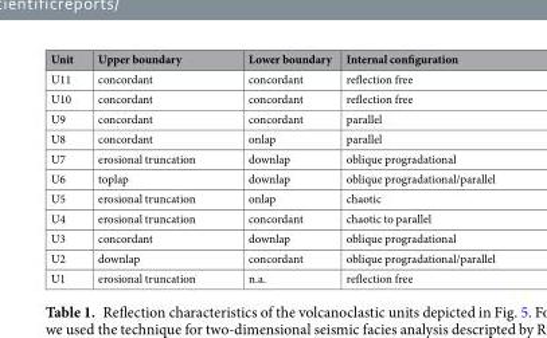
<table><thead><tr><td>Unit</td><td>Upper boundary</td><td>Lower boundary</td><td>Internal configuration</td></tr></thead><tbody><tr><td>U11</td><td>concordant</td><td>concordant</td><td>reflection free</td></tr><tr><td>U10</td><td>concordant</td><td>concordant</td><td>reflection free</td></tr><tr><td>U9</td><td>concordant</td><td>concordant</td><td>parallel</td></tr><tr><td>U8</td><td>concordant</td><td>onlap</td><td>parallel</td></tr><tr><td>U7</td><td>erosional truncation</td><td>downlap</td><td>oblique progradational</td></tr><tr><td>U6</td><td>toplap</td><td>downlap</td><td>oblique progradational/parallel</td></tr><tr><td>U5</td><td>erosional truncation</td><td>onlap</td><td>chaotic</td></tr><tr><td>U4</td><td>erosional truncation</td><td>concordant</td><td>chaotic to parallel</td></tr><tr><td>U3</td><td>concordant</td><td>downlap</td><td>oblique progradational</td></tr><tr><td>U2</td><td>downlap</td><td>concordant</td><td>oblique progradational/parallel</td></tr><tr><td>U1</td><td>erosional truncation</td><td>n.a.</td><td>reflection free</td></tr></tbody></table>